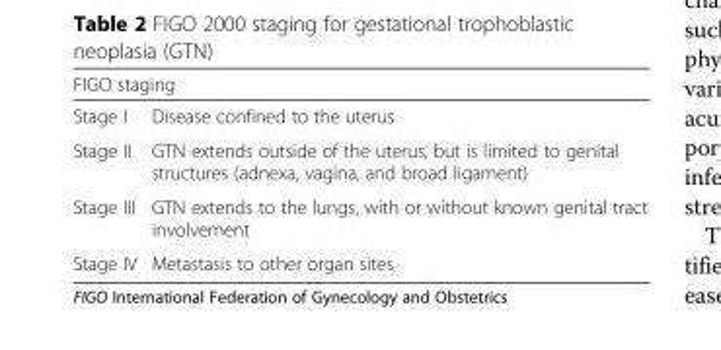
<table><thead><tr><td colspan="2">FIGO staging</td></tr><tr><td>Stage I</td><td>Disease confined to the uterus</td></tr></thead><tbody><tr><td>Stage II</td><td>GTN extends outside of the uterus, but is limited to genital structures (adnexa, vagina, and broad ligament)</td></tr><tr><td>Stage III</td><td>GTN extends to the lungs, with or without known genital tract involvement</td></tr><tr><td>Stage IV</td><td>Metastasis to other organ sites</td></tr></tbody></table>